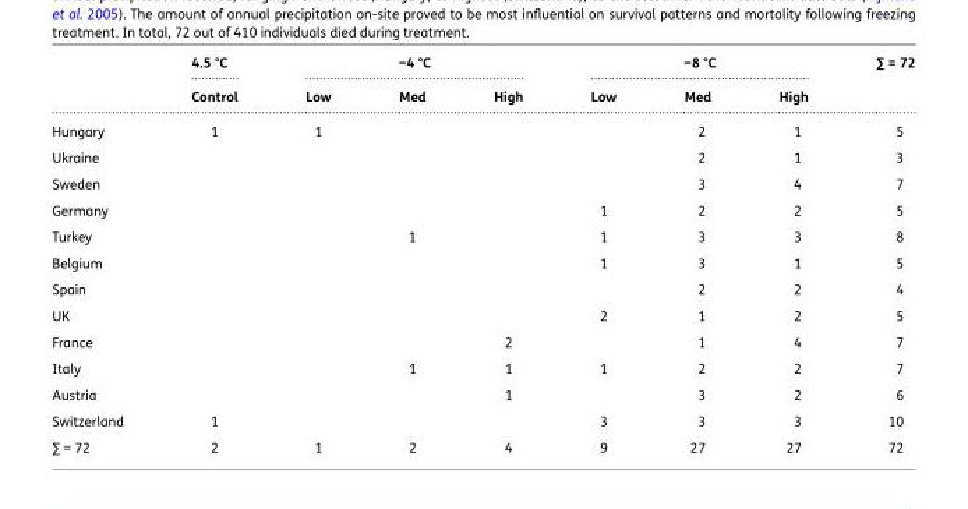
<table><thead><tr><td rowspan="2"></td><td rowspan="2">4.5 °C Control</td><td colspan="3">−4 °C</td><td colspan="3">−8 °C</td><td rowspan="2">∑ = 72</td></tr><tr><td>Low</td><td>Med</td><td>High</td><td>Low</td><td>Med</td><td>High</td></tr></thead><tbody><tr><td>Hungary</td><td>1</td><td>1</td><td></td><td></td><td></td><td>2</td><td>1</td><td>5</td></tr><tr><td>Ukraine</td><td></td><td></td><td></td><td></td><td></td><td>2</td><td>1</td><td>3</td></tr><tr><td>Sweden</td><td></td><td></td><td></td><td></td><td></td><td>3</td><td>4</td><td>7</td></tr><tr><td>Germany</td><td></td><td></td><td></td><td></td><td>1</td><td>2</td><td>2</td><td>5</td></tr><tr><td>Turkey</td><td></td><td></td><td>1</td><td></td><td>1</td><td>3</td><td>3</td><td>8</td></tr><tr><td>Belgium</td><td></td><td></td><td></td><td></td><td>1</td><td>3</td><td>1</td><td>5</td></tr><tr><td>Spain</td><td></td><td></td><td></td><td></td><td></td><td>2</td><td>2</td><td>4</td></tr><tr><td>UK</td><td></td><td></td><td></td><td></td><td>2</td><td>1</td><td>2</td><td>5</td></tr><tr><td>France</td><td></td><td></td><td></td><td>2</td><td></td><td>1</td><td>4</td><td>7</td></tr><tr><td>Italy</td><td></td><td></td><td>1</td><td>1</td><td>1</td><td>2</td><td>2</td><td>7</td></tr><tr><td>Austria</td><td></td><td></td><td></td><td>1</td><td></td><td>3</td><td>2</td><td>6</td></tr><tr><td>Switzerland</td><td>1</td><td></td><td></td><td></td><td>3</td><td>3</td><td>3</td><td>10</td></tr><tr><td>∑ = 72</td><td>2</td><td>1</td><td>2</td><td>4</td><td>9</td><td>27</td><td>27</td><td>72</td></tr></tbody></table>